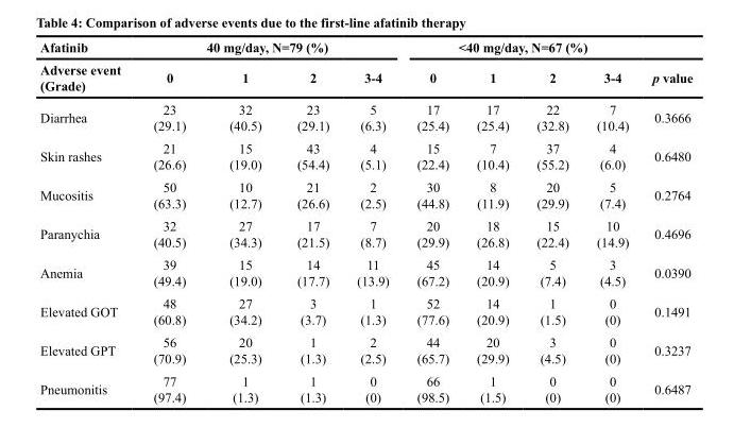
<table><thead><tr><td rowspan="2">Afatinib Adverse event (Grade)</td><td colspan="4">40 mg/day, N=79 (%)</td><td colspan="4">&lt;40 mg/day, N=67 (%)</td><td rowspan="2">p value</td></tr><tr><td>0</td><td>1</td><td>2</td><td>3-4</td><td>0</td><td>1</td><td>2</td><td>3-4</td></tr></thead><tbody><tr><td>Diarrhea</td><td>23 (29.1)</td><td>32 (40.5)</td><td>23 (29.1)</td><td>5 (6.3)</td><td>17 (25.4)</td><td>17 (25.4)</td><td>22 (32.8)</td><td>7 (10.4)</td><td>0.3666</td></tr><tr><td>Skin rashes</td><td>21 (26.6)</td><td>15 (19.0)</td><td>43 (54.4)</td><td>4 (5.1)</td><td>15 (22.4)</td><td>7 (10.4)</td><td>37 (55.2)</td><td>4 (6.0)</td><td>0.6480</td></tr><tr><td>Mucositis</td><td>50 (63.3)</td><td>10 (12.7)</td><td>21 (26.6)</td><td>2 (2.5)</td><td>30 (44.8)</td><td>8 (11.9)</td><td>20 (29.9)</td><td>5 (7.4)</td><td>0.2764</td></tr><tr><td>Paranychia</td><td>32 (40.5)</td><td>27 (34.3)</td><td>17 (21.5)</td><td>7 (8.7)</td><td>20 (29.9)</td><td>18 (26.8)</td><td>15 (22.4)</td><td>10 (14.9)</td><td>0.4696</td></tr><tr><td>Anemia</td><td>39 (49.4)</td><td>15 (19.0)</td><td>14 (17.7)</td><td>11 (13.9)</td><td>45 (67.2)</td><td>14 (20.9)</td><td>5 (7.4)</td><td>3 (4.5)</td><td>0.0390</td></tr><tr><td>Elevated GOT</td><td>48 (60.8)</td><td>27 (34.2)</td><td>3 (3.7)</td><td>1 (1.3)</td><td>52 (77.6)</td><td>14 (20.9)</td><td>1 (1.5)</td><td>0 (0)</td><td>0.1491</td></tr><tr><td>Elevated GPT</td><td>56 (70.9)</td><td>20 (25.3)</td><td>1 (1.3)</td><td>2 (2.5)</td><td>44 (65.7)</td><td>20 (29.9)</td><td>3 (4.5)</td><td>0 (0)</td><td>0.3237</td></tr><tr><td>Pneumonitis</td><td>77 (97.4)</td><td>1 (1.3)</td><td>1 (1.3)</td><td>0 (0)</td><td>66 (98.5)</td><td>1 (1.5)</td><td>0 (0)</td><td>0 (0)</td><td>0.6487</td></tr></tbody></table>